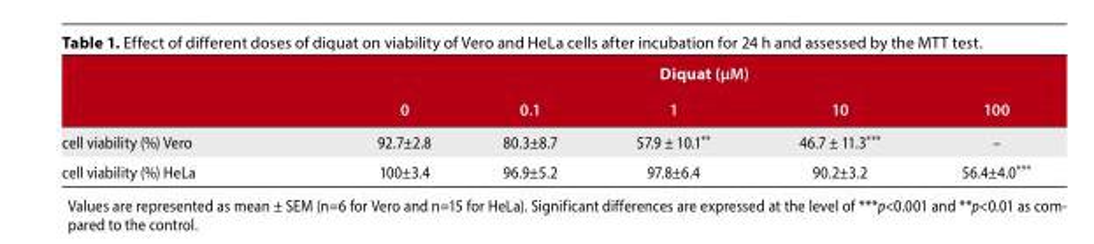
<table><thead><tr><td rowspan="2"></td><td colspan="5">Diquat (μM)</td></tr><tr><td>0</td><td>0.1</td><td>1</td><td>10</td><td>100</td></tr></thead><tbody><tr><td>cell viability (%) Vero</td><td>92.7±2.8</td><td>80.3±8.7</td><td>57.9 ± 10.1**</td><td>46.7 ± 11.3***</td><td>–</td></tr><tr><td>cell viability (%) HeLa</td><td>100±3.4</td><td>96.9±5.2</td><td>97.8±6.4</td><td>90.2±3.2</td><td>56.4±4.0***</td></tr></tbody></table>